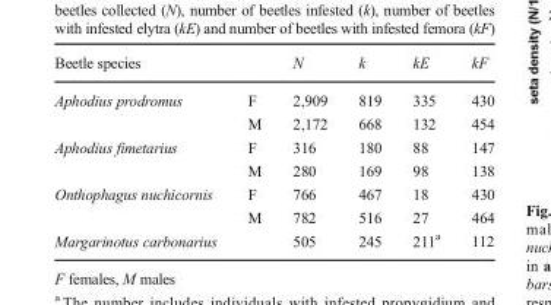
<table><thead><tr><td>Beetle species</td><td></td><td>N</td><td>k</td><td>kE</td><td>kF</td></tr></thead><tbody><tr><td rowspan="2">Aphodius prodromus</td><td>F</td><td>2,909</td><td>819</td><td>335</td><td>430</td></tr><tr><td>M</td><td>2,172</td><td>668</td><td>132</td><td>454</td></tr><tr><td rowspan="2">Aphodius fimetarius</td><td>F</td><td>316</td><td>180</td><td>88</td><td>147</td></tr><tr><td>M</td><td>280</td><td>169</td><td>98</td><td>138</td></tr><tr><td rowspan="2">Onthophagus nuchicornis</td><td>F</td><td>766</td><td>467</td><td>18</td><td>430</td></tr><tr><td>M</td><td>782</td><td>516</td><td>27</td><td>464</td></tr><tr><td>Margarinotus carbonarius</td><td></td><td>505</td><td>245</td><td>211<sup>a</sup></td><td>112</td></tr></tbody></table>